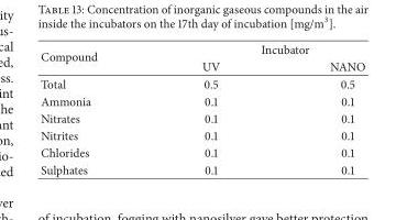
<table><thead><tr><td rowspan="2">Compound</td><td colspan="2">Incubator</td></tr><tr><td>UV</td><td>NANO</td></tr></thead><tbody><tr><td>Total</td><td>0.5</td><td>0.5</td></tr><tr><td>Ammonia</td><td>0.1</td><td>0.1</td></tr><tr><td>Nitrates</td><td>0.1</td><td>0.1</td></tr><tr><td>Nitrites</td><td>0.1</td><td>0.1</td></tr><tr><td>Chlorides</td><td>0.1</td><td>0.1</td></tr><tr><td>Sulphates</td><td>0.1</td><td>0.1</td></tr></tbody></table>